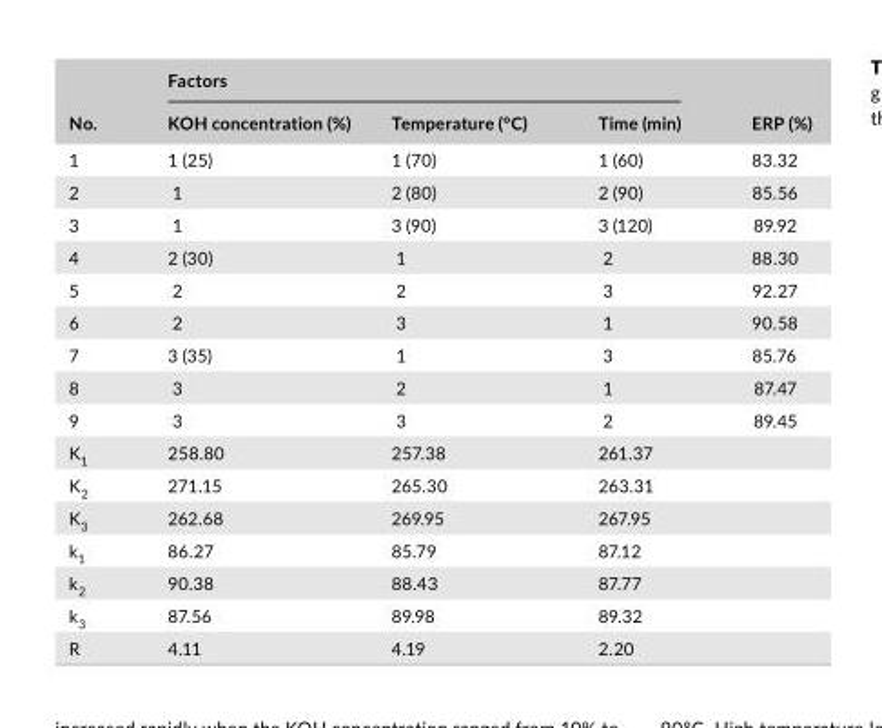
<table><thead><tr><td rowspan="2">No.</td><td colspan="3">Factors</td><td rowspan="2">ERP (%)</td></tr><tr><td>KOH concentration (%)</td><td>Temperature (°C)</td><td>Time (min)</td></tr></thead><tbody><tr><td>1</td><td>1 (25)</td><td>1 (70)</td><td>1 (60)</td><td>83.32</td></tr><tr><td>2</td><td>1</td><td>2 (80)</td><td>2 (90)</td><td>85.56</td></tr><tr><td>3</td><td>1</td><td>3 (90)</td><td>3 (120)</td><td>89.92</td></tr><tr><td>4</td><td>2 (30)</td><td>1</td><td>2</td><td>88.30</td></tr><tr><td>5</td><td>2</td><td>2</td><td>3</td><td>92.27</td></tr><tr><td>6</td><td>2</td><td>3</td><td>1</td><td>90.58</td></tr><tr><td>7</td><td>3 (35)</td><td>1</td><td>3</td><td>85.76</td></tr><tr><td>8</td><td>3</td><td>2</td><td>1</td><td>87.47</td></tr><tr><td>9</td><td>3</td><td>3</td><td>2</td><td>89.45</td></tr><tr><td>K<sub>1</sub></td><td>258.80</td><td>257.38</td><td>261.37</td><td></td></tr><tr><td>K<sub>2</sub></td><td>271.15</td><td>265.30</td><td>263.31</td><td></td></tr><tr><td>K<sub>3</sub></td><td>262.68</td><td>269.95</td><td>267.95</td><td></td></tr><tr><td>k<sub>1</sub></td><td>86.27</td><td>85.79</td><td>87.12</td><td></td></tr><tr><td>k<sub>2</sub></td><td>90.38</td><td>88.43</td><td>87.77</td><td></td></tr><tr><td>k<sub>3</sub></td><td>87.56</td><td>89.98</td><td>89.32</td><td></td></tr><tr><td>R</td><td>4.11</td><td>4.19</td><td>2.20</td><td></td></tr></tbody></table>